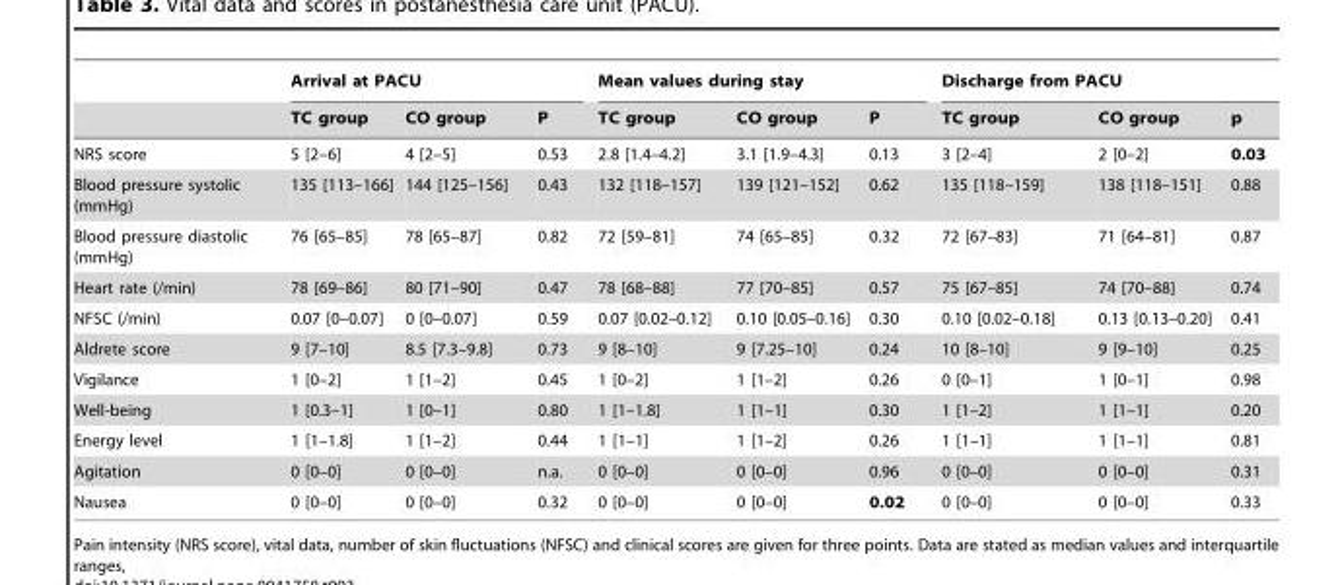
<table><thead><tr><td rowspan="2"></td><td colspan="3">Arrival at PACU</td><td colspan="3">Mean values during stay</td><td colspan="3">Discharge from PACU</td></tr><tr><td>TC group</td><td>CO group</td><td>P</td><td>TC group</td><td>CO group</td><td>P</td><td>TC group</td><td>CO group</td><td>p</td></tr></thead><tbody><tr><td>NRS score</td><td>5 [2–6]</td><td>4 [2–5]</td><td>0.53</td><td>2.8 [1.4–4.2]</td><td>3.1 [1.9–4.3]</td><td>0.13</td><td>3 [2–4]</td><td>2 [0–2]</td><td>0.03</td></tr><tr><td>Blood pressure systolic (mmHg)</td><td>135 [113–166]</td><td>144 [125–156]</td><td>0.43</td><td>132 [118–157]</td><td>139 [121–152]</td><td>0.62</td><td>135 [118–159]</td><td>138 [118–151]</td><td>0.88</td></tr><tr><td>Blood pressure diastolic (mmHg)</td><td>76 [65–85]</td><td>78 [65–87]</td><td>0.82</td><td>72 [59–81]</td><td>74 [65–85]</td><td>0.32</td><td>72 [67–83]</td><td>71 [64–81]</td><td>0.87</td></tr><tr><td>Heart rate (/min)</td><td>78 [69–86]</td><td>80 [71–90]</td><td>0.47</td><td>78 [68–88]</td><td>77 [70–85]</td><td>0.57</td><td>75 [67–85]</td><td>74 [70–88]</td><td>0.74</td></tr><tr><td>NFSC (/min)</td><td>0.07 [0–0.07]</td><td>0 [0–0.07]</td><td>0.59</td><td>0.07 [0.02–0.12]</td><td>0.10 [0.05–0.16]</td><td>0.30</td><td>0.10 [0.02–0.18]</td><td>0.13 [0.13–0.20]</td><td>0.41</td></tr><tr><td>Aldrete score</td><td>9 [7–10]</td><td>8.5 [7.3–9.8]</td><td>0.73</td><td>9 [8–10]</td><td>9 [7.25–10]</td><td>0.24</td><td>10 [8–10]</td><td>9 [9–10]</td><td>0.25</td></tr><tr><td>Vigilance</td><td>1 [0–2]</td><td>1 [1–2]</td><td>0.45</td><td>1 [0–2]</td><td>1 [1–2]</td><td>0.26</td><td>0 [0–1]</td><td>1 [0–1]</td><td>0.98</td></tr><tr><td>Well-being</td><td>1 [0.3–1]</td><td>1 [0–1]</td><td>0.80</td><td>1 [1–1.8]</td><td>1 [1–1]</td><td>0.30</td><td>1 [1–2]</td><td>1 [1–1]</td><td>0.20</td></tr><tr><td>Energy level</td><td>1 [1–1.8]</td><td>1 [1–2]</td><td>0.44</td><td>1 [1–1]</td><td>1 [1–2]</td><td>0.26</td><td>1 [1–1]</td><td>1 [1–1]</td><td>0.81</td></tr><tr><td>Agitation</td><td>0 [0–0]</td><td>0 [0–0]</td><td>n.a.</td><td>0 [0–0]</td><td>0 [0–0]</td><td>0.96</td><td>0 [0–0]</td><td>0 [0–0]</td><td>0.31</td></tr><tr><td>Nausea</td><td>0 [0–0]</td><td>0 [0–0]</td><td>0.32</td><td>0 [0–0]</td><td>0 [0–0]</td><td>0.02</td><td>0 [0–0]</td><td>0 [0–0]</td><td>0.33</td></tr></tbody></table>